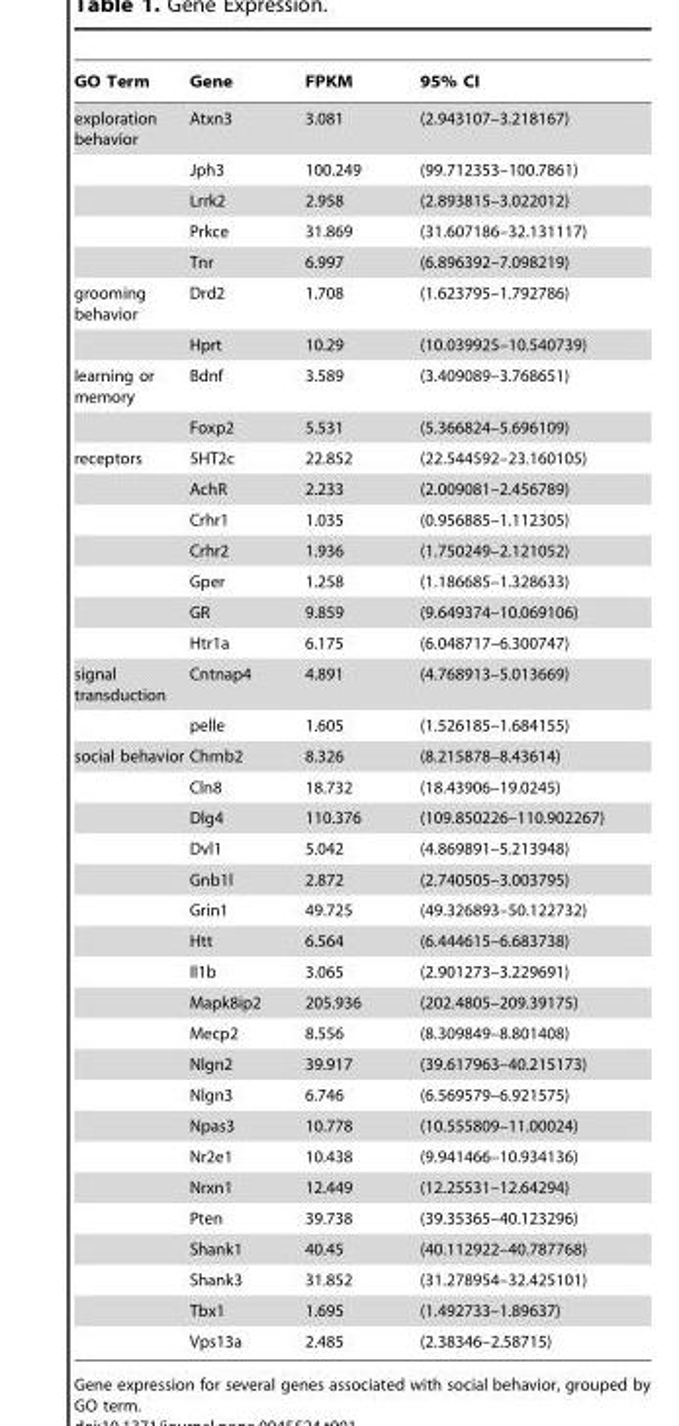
<table><thead><tr><td>GO Term</td><td>Gene</td><td>FPKM</td><td>95% CI</td></tr></thead><tbody><tr><td rowspan="5">exploration behavior</td><td>Atxn3</td><td>3.081</td><td>(2.943107–3.218167)</td></tr><tr><td>Jph3</td><td>100.249</td><td>(99.712353–100.7861)</td></tr><tr><td>Lrrk2</td><td>2.958</td><td>(2.893815–3.022012)</td></tr><tr><td>Prkce</td><td>31.869</td><td>(31.607186–32.131117)</td></tr><tr><td>Tnr</td><td>6.997</td><td>(6.896392–7.098219)</td></tr><tr><td rowspan="2">grooming behavior</td><td>Drd2</td><td>1.708</td><td>(1.623795–1.792786)</td></tr><tr><td>Hprt</td><td>10.29</td><td>(10.039925–10.540739)</td></tr><tr><td rowspan="2">learning or memory</td><td>Bdnf</td><td>3.589</td><td>(3.409089–3.768651)</td></tr><tr><td>Foxp2</td><td>5.531</td><td>(5.366824–5.696109)</td></tr><tr><td rowspan="7">receptors</td><td>5HT2c</td><td>22.852</td><td>(22.544592–23.160105)</td></tr><tr><td>AchR</td><td>2.233</td><td>(2.009081–2.456789)</td></tr><tr><td>Crhr1</td><td>1.035</td><td>(0.956885–1.112305)</td></tr><tr><td>Crhr2</td><td>1.936</td><td>(1.750249–2.121052)</td></tr><tr><td>Gper</td><td>1.258</td><td>(1.186685–1.328633)</td></tr><tr><td>GR</td><td>9.859</td><td>(9.649374–10.069106)</td></tr><tr><td>Htr1a</td><td>6.175</td><td>(6.048717–6.300747)</td></tr><tr><td rowspan="2">signal transduction</td><td>Cntnap4</td><td>4.891</td><td>(4.768913–5.013669)</td></tr><tr><td>pelle</td><td>1.605</td><td>(1.526185–1.684155)</td></tr><tr><td rowspan="20">social behavior</td><td>Chrnb2</td><td>8.326</td><td>(8.215878–8.43614)</td></tr><tr><td>Cln8</td><td>18.732</td><td>(18.43906–19.0245)</td></tr><tr><td>Dlg4</td><td>110.376</td><td>(109.850226–110.902267)</td></tr><tr><td>Dvl1</td><td>5.042</td><td>(4.869891–5.213948)</td></tr><tr><td>Gnb1l</td><td>2.872</td><td>(2.740505–3.003795)</td></tr><tr><td>Grin1</td><td>49.725</td><td>(49.326893–50.122732)</td></tr><tr><td>Htt</td><td>6.564</td><td>(6.444615–6.683738)</td></tr><tr><td>Il1b</td><td>3.065</td><td>(2.901273–3.229691)</td></tr><tr><td>Mapk8ip2</td><td>205.936</td><td>(202.4805–209.39175)</td></tr><tr><td>Mecp2</td><td>8.556</td><td>(8.309849–8.801408)</td></tr><tr><td>Nlgn2</td><td>39.917</td><td>(39.617963–40.215173)</td></tr><tr><td>Nlgn3</td><td>6.746</td><td>(6.569579–6.921575)</td></tr><tr><td>Npas3</td><td>10.778</td><td>(10.555809–11.00024)</td></tr><tr><td>Nr2e1</td><td>10.438</td><td>(9.941466–10.934136)</td></tr><tr><td>Nrxn1</td><td>12.449</td><td>(12.25531–12.64294)</td></tr><tr><td>Pten</td><td>39.738</td><td>(39.35365–40.123296)</td></tr><tr><td>Shank1</td><td>40.45</td><td>(40.112922–40.787768)</td></tr><tr><td>Shank3</td><td>31.852</td><td>(31.278954–32.425101)</td></tr><tr><td>Tbx1</td><td>1.695</td><td>(1.492733–1.89637)</td></tr><tr><td>Vps13a</td><td>2.485</td><td>(2.38346–2.58715)</td></tr></tbody></table>